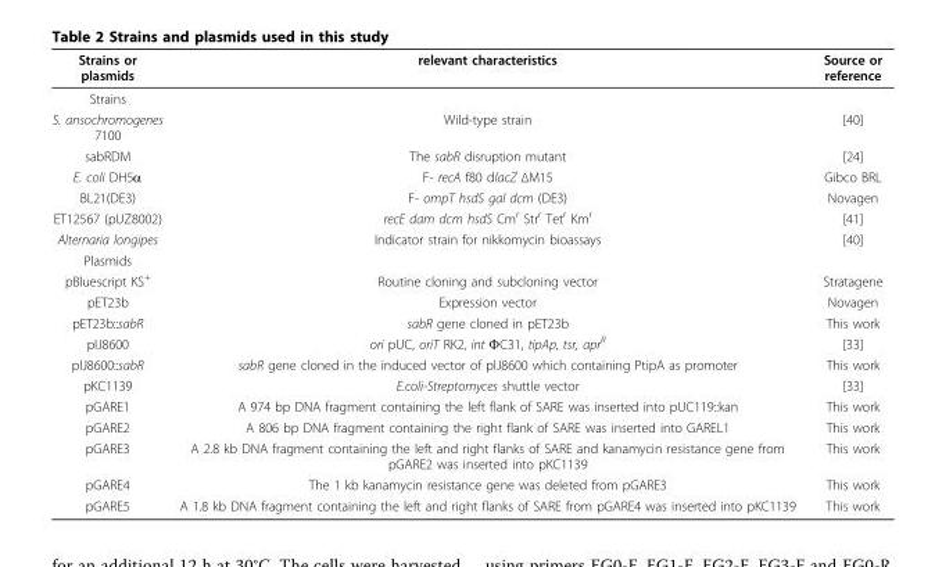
<table><thead><tr><td>Strains or plasmids</td><td>relevant characteristics</td><td>Source or reference</td></tr></thead><tbody><tr><td colspan="3">Strains</td></tr><tr><td>S. ansochromogenes 7100</td><td>Wild-type strain</td><td>[40]</td></tr><tr><td>sabRDM</td><td>The sabR disruption mutant</td><td>[24]</td></tr><tr><td>E. coli DH5α</td><td>F- recA f80 dlacZ ΔM15</td><td>Gibco BRL</td></tr><tr><td>BL21(DE3)</td><td>F- ompT hsdS gal dcm (DE3)</td><td>Novagen</td></tr><tr><td>ET12567 (pUZ8002)</td><td>recE dam dcm hsdS Cm<sup>r</sup> Str<sup>r</sup> Tet<sup>r</sup> Km<sup>r</sup></td><td>[41]</td></tr><tr><td>Alternaria longipes</td><td>Indicator strain for nikkomycin bioassays</td><td>[40]</td></tr><tr><td colspan="3">Plasmids</td></tr><tr><td>pBluescript KS<sup>+</sup></td><td>Routine cloning and subcloning vector</td><td>Stratagene</td></tr><tr><td>pET23b</td><td>Expression vector</td><td>Novagen</td></tr><tr><td>pET23b::sabR</td><td>sabR gene cloned in pET23b</td><td>This work</td></tr><tr><td>pIJ8600</td><td>ori pUC, oriT RK2, int ΦC31, tipAp, tsr, apr<sup>R</sup></td><td>[33]</td></tr><tr><td>pIJ8600::sabR</td><td>sabR gene cloned in the induced vector of pIJ8600 which containing PtipA as promoter</td><td>This work</td></tr><tr><td>pKC1139</td><td>E.coli-Streptomyces shuttle vector</td><td>[33]</td></tr><tr><td>pGARE1</td><td>A 974 bp DNA fragment containing the left flank of SARE was inserted into pUC119::kan</td><td>This work</td></tr><tr><td>pGARE2</td><td>A 806 bp DNA fragment containing the right flank of SARE was inserted into GAREL1</td><td>This work</td></tr><tr><td>pGARE3</td><td>A 2.8 kb DNA fragment containing the left and right flanks of SARE and kanamycin resistance gene from pGARE2 was inserted into pKC1139</td><td>This work</td></tr><tr><td>pGARE4</td><td>The 1 kb kanamycin resistance gene was deleted from pGARE3</td><td>This work</td></tr><tr><td>pGARE5</td><td>A 1.8 kb DNA fragment containing the left and right flanks of SARE from pGARE4 was inserted into pKC1139</td><td>This work</td></tr></tbody></table>